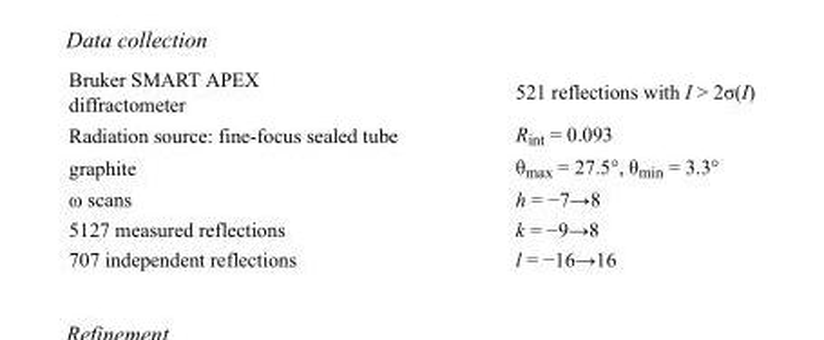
<table><tbody><tr><td>Bruker SMART APEX diffractometer</td><td>521 reflections with I &gt; 2σ(I)</td></tr><tr><td>Radiation source: fine-focus sealed tube</td><td>R<sub>int</sub> = 0.093</td></tr><tr><td>graphite</td><td>θ<sub>max</sub> = 27.5°, θ<sub>min</sub> = 3.3°</td></tr><tr><td>ω scans</td><td>h = −7→8</td></tr><tr><td>5127 measured reflections</td><td>k = −9→8</td></tr><tr><td>707 independent reflections</td><td>l = −16→16</td></tr></tbody></table>